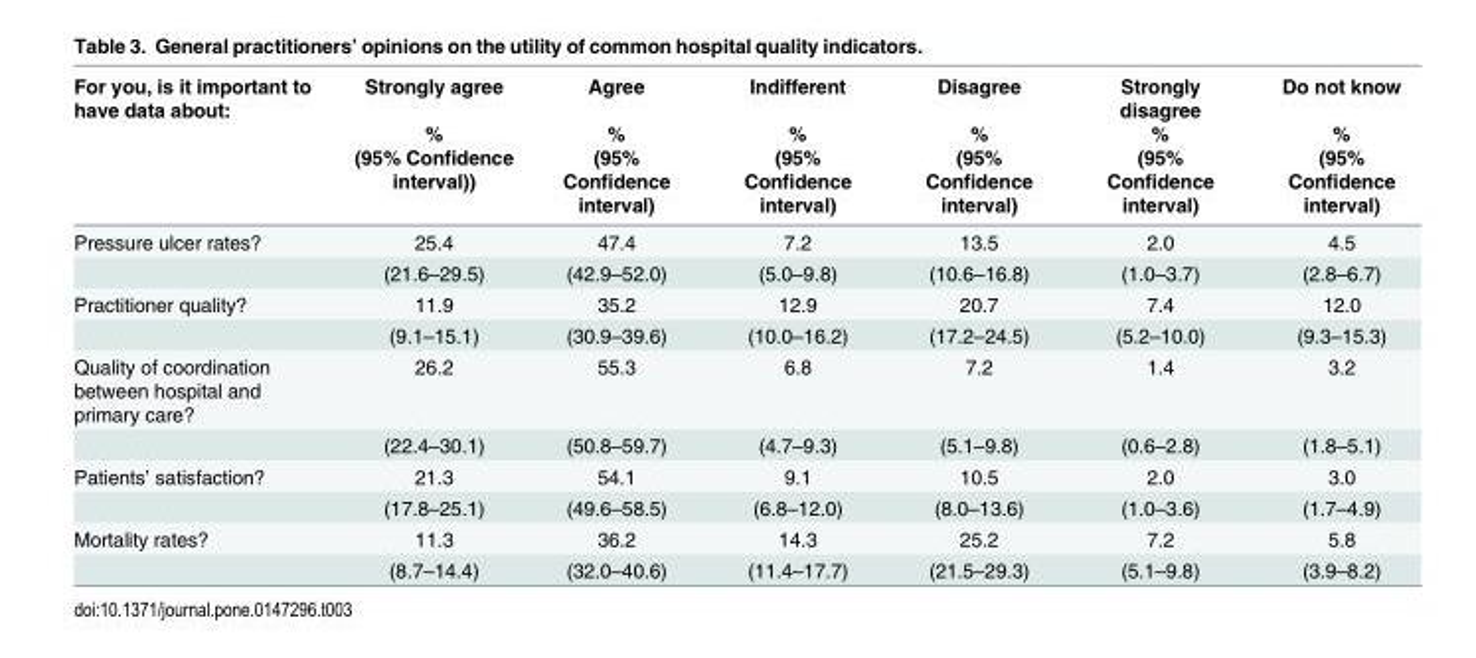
<table><thead><tr><td rowspan="3">For you, is it important to have data about:</td><td rowspan="3">Strongly agree % (95% Confidence interval))</td><td rowspan="3">Agree % (95% Confidence interval)</td><td rowspan="3">Indifferent % (95% Confidence interval)</td><td rowspan="3">Disagree % (95% Confidence interval)</td><td rowspan="3">Strongly disagree % (95% Confidence interval)</td><td rowspan="3">Do not know % (95% Confidence interval)</td></tr><tr></tr><tr></tr></thead><tbody><tr><td rowspan="2">Pressure ulcer rates?</td><td>25.4</td><td>47.4</td><td>7.2</td><td>13.5</td><td>2.0</td><td>4.5</td></tr><tr><td>(21.6–29.5)</td><td>(42.9–52.0)</td><td>(5.0–9.8)</td><td>(10.6–16.8)</td><td>(1.0–3.7)</td><td>(2.8–6.7)</td></tr><tr><td rowspan="2">Practitioner quality?</td><td>11.9</td><td>35.2</td><td>12.9</td><td>20.7</td><td>7.4</td><td>12.0</td></tr><tr><td>(9.1–15.1)</td><td>(30.9–39.6)</td><td>(10.0–16.2)</td><td>(17.2–24.5)</td><td>(5.2–10.0)</td><td>(9.3–15.3)</td></tr><tr><td rowspan="2">Quality of coordination between hospital and primary care?</td><td>26.2</td><td>55.3</td><td>6.8</td><td>7.2</td><td>1.4</td><td>3.2</td></tr><tr><td>(22.4–30.1)</td><td>(50.8–59.7)</td><td>(4.7–9.3)</td><td>(5.1–9.8)</td><td>(0.6–2.8)</td><td>(1.8–5.1)</td></tr><tr><td rowspan="2">Patients’ satisfaction?</td><td>21.3</td><td>54.1</td><td>9.1</td><td>10.5</td><td>2.0</td><td>3.0</td></tr><tr><td>(17.8–25.1)</td><td>(49.6–58.5)</td><td>(6.8–12.0)</td><td>(8.0–13.6)</td><td>(1.0–3.6)</td><td>(1.7–4.9)</td></tr><tr><td rowspan="2">Mortality rates?</td><td>11.3</td><td>36.2</td><td>14.3</td><td>25.2</td><td>7.2</td><td>5.8</td></tr><tr><td>(8.7–14.4)</td><td>(32.0–40.6)</td><td>(11.4–17.7)</td><td>(21.5–29.3)</td><td>(5.1–9.8)</td><td>(3.9–8.2)</td></tr></tbody></table>